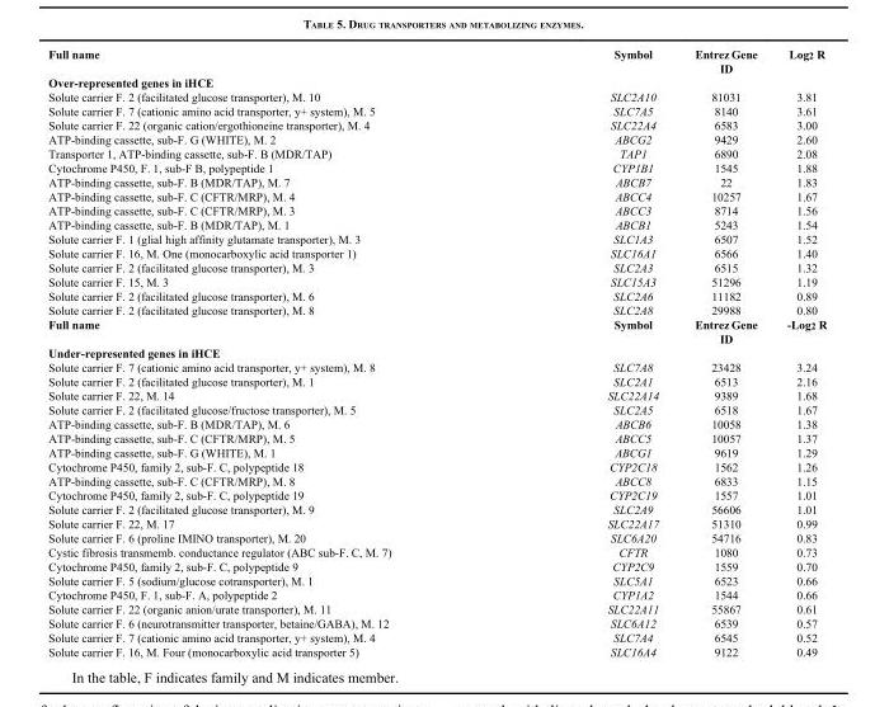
<table><thead><tr><td>Full name</td><td>Symbol</td><td>Entrez Gene ID</td><td>Log<sub>2</sub> R</td></tr></thead><tbody><tr><td colspan="4">Over-represented genes in iHCE</td></tr><tr><td>Solute carrier F. 2 (facilitated glucose transporter), M. 10</td><td>SLC2A10</td><td>81031</td><td>3.81</td></tr><tr><td>Solute carrier F. 7 (cationic amino acid transporter, y+ system), M. 5</td><td>SLC7A5</td><td>8140</td><td>3.61</td></tr><tr><td>Solute carrier F. 22 (organic cation/ergothioneine transporter), M. 4</td><td>SLC22A4</td><td>6583</td><td>3.00</td></tr><tr><td>ATP-binding cassette, sub-F. G (WHITE), M. 2</td><td>ABCG2</td><td>9429</td><td>2.60</td></tr><tr><td>Transporter 1, ATP-binding cassette, sub-F. B (MDR/TAP)</td><td>TAP1</td><td>6890</td><td>2.08</td></tr><tr><td>Cytochrome P450, F. 1, sub-F B, polypeptide 1</td><td>CYP1B1</td><td>1545</td><td>1.88</td></tr><tr><td>ATP-binding cassette, sub-F. B (MDR/TAP), M. 7</td><td>ABCB7</td><td>22</td><td>1.83</td></tr><tr><td>ATP-binding cassette, sub-F. C (CFTR/MRP), M. 4</td><td>ABCC4</td><td>10257</td><td>1.67</td></tr><tr><td>ATP-binding cassette, sub-F. C (CFTR/MRP), M. 3</td><td>ABCC3</td><td>8714</td><td>1.56</td></tr><tr><td>ATP-binding cassette, sub-F. B (MDR/TAP), M. 1</td><td>ABCB1</td><td>5243</td><td>1.54</td></tr><tr><td>Solute carrier F. 1 (glial high affinity glutamate transporter), M. 3</td><td>SLC1A3</td><td>6507</td><td>1.52</td></tr><tr><td>Solute carrier F. 16, M. One (monocarboxylic acid transporter 1)</td><td>SLC16A1</td><td>6566</td><td>1.40</td></tr><tr><td>Solute carrier F. 2 (facilitated glucose transporter), M. 3</td><td>SLC2A3</td><td>6515</td><td>1.32</td></tr><tr><td>Solute carrier F. 15, M. 3</td><td>SLC15A3</td><td>51296</td><td>1.19</td></tr><tr><td>Solute carrier F. 2 (facilitated glucose transporter), M. 6</td><td>SLC2A6</td><td>11182</td><td>0.89</td></tr><tr><td>Solute carrier F. 2 (facilitated glucose transporter), M. 8</td><td>SLC2A8</td><td>29988</td><td>0.80</td></tr><tr><td>Full name</td><td>Symbol</td><td>Entrez Gene ID</td><td>-Log<sub>2</sub> R</td></tr><tr><td colspan="4">Under-represented genes in iHCE</td></tr><tr><td>Solute carrier F. 7 (cationic amino acid transporter, y+ system), M. 8</td><td>SLC7A8</td><td>23428</td><td>3.24</td></tr><tr><td>Solute carrier F. 2 (facilitated glucose transporter), M. 1</td><td>SLC2A1</td><td>6513</td><td>2.16</td></tr><tr><td>Solute carrier F. 22, M. 14</td><td>SLC22A14</td><td>9389</td><td>1.68</td></tr><tr><td>Solute carrier F. 2 (facilitated glucose/fructose transporter), M. 5</td><td>SLC2A5</td><td>6518</td><td>1.67</td></tr><tr><td>ATP-binding cassette, sub-F. B (MDR/TAP), M. 6</td><td>ABCB6</td><td>10058</td><td>1.38</td></tr><tr><td>ATP-binding cassette, sub-F. C (CFTR/MRP), M. 5</td><td>ABCC5</td><td>10057</td><td>1.37</td></tr><tr><td>ATP-binding cassette, sub-F. G (WHITE), M. 1</td><td>ABCG1</td><td>9619</td><td>1.29</td></tr><tr><td>Cytochrome P450, family 2, sub-F. C, polypeptide 18</td><td>CYP2C18</td><td>1562</td><td>1.26</td></tr><tr><td>ATP-binding cassette, sub-F. C (CFTR/MRP), M. 8</td><td>ABCC8</td><td>6833</td><td>1.15</td></tr><tr><td>Cytochrome P450, family 2, sub-F. C, polypeptide 19</td><td>CYP2C19</td><td>1557</td><td>1.01</td></tr><tr><td>Solute carrier F. 2 (facilitated glucose transporter), M. 9</td><td>SLC2A9</td><td>56606</td><td>1.01</td></tr><tr><td>Solute carrier F. 22, M. 17</td><td>SLC22A17</td><td>51310</td><td>0.99</td></tr><tr><td>Solute carrier F. 6 (proline IMINO transporter), M. 20</td><td>SLC6A20</td><td>54716</td><td>0.83</td></tr><tr><td>Cystic fibrosis transmemb. conductance regulator (ABC sub-F. C, M. 7)</td><td>CFTR</td><td>1080</td><td>0.73</td></tr><tr><td>Cytochrome P450, family 2, sub-F. C, polypeptide 9</td><td>CYP2C9</td><td>1559</td><td>0.70</td></tr><tr><td>Solute carrier F. 5 (sodium/glucose cotransporter), M. 1</td><td>SLC5A1</td><td>6523</td><td>0.66</td></tr><tr><td>Cytochrome P450, F. 1, sub-F. A, polypeptide 2</td><td>CYP1A2</td><td>1544</td><td>0.66</td></tr><tr><td>Solute carrier F. 22 (organic anion/urate transporter), M. 11</td><td>SLC22A11</td><td>55867</td><td>0.61</td></tr><tr><td>Solute carrier F. 6 (neurotransmitter transporter, betaine/GABA), M. 12</td><td>SLC6A12</td><td>6539</td><td>0.57</td></tr><tr><td>Solute carrier F. 7 (cationic amino acid transporter, y+ system), M. 4</td><td>SLC7A4</td><td>6545</td><td>0.52</td></tr><tr><td>Solute carrier F. 16, M. Four (monocarboxylic acid transporter 5)</td><td>SLC16A4</td><td>9122</td><td>0.49</td></tr></tbody></table>